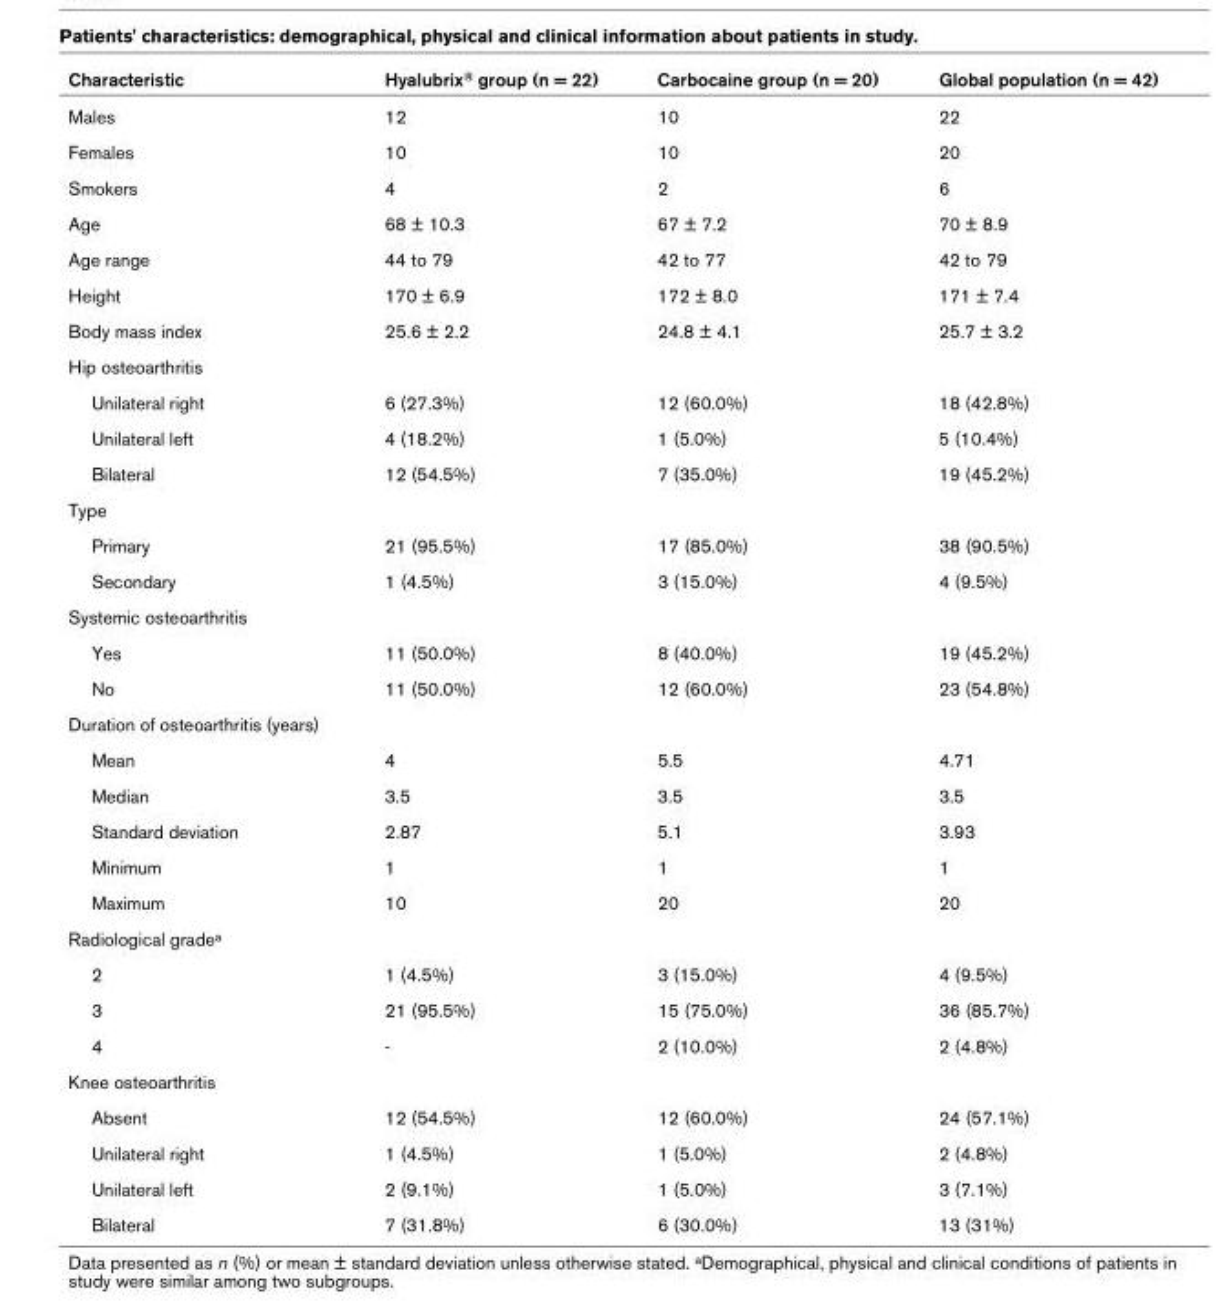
<table><thead><tr><td>Characteristic</td><td>Hyalubrix<sup>®</sup> group (n = 22)</td><td>Carbocaine group (n = 20)</td><td>Global population (n = 42)</td></tr></thead><tbody><tr><td>Males</td><td>12</td><td>10</td><td>22</td></tr><tr><td>Females</td><td>10</td><td>10</td><td>20</td></tr><tr><td>Smokers</td><td>4</td><td>2</td><td>6</td></tr><tr><td>Age</td><td>68 ± 10.3</td><td>67 ± 7.2</td><td>70 ± 8.9</td></tr><tr><td>Age range</td><td>44 to 79</td><td>42 to 77</td><td>42 to 79</td></tr><tr><td>Height</td><td>170 ± 6.9</td><td>172 ± 8.0</td><td>171 ± 7.4</td></tr><tr><td>Body mass index</td><td>25.6 ± 2.2</td><td>24.8 ± 4.1</td><td>25.7 ± 3.2</td></tr><tr><td colspan="4">Hip osteoarthritis</td></tr><tr><td>Unilateral right</td><td>6 (27.3%)</td><td>12 (60.0%)</td><td>18 (42.8%)</td></tr><tr><td>Unilateral left</td><td>4 (18.2%)</td><td>1 (5.0%)</td><td>5 (10.4%)</td></tr><tr><td>Bilateral</td><td>12 (54.5%)</td><td>7 (35.0%)</td><td>19 (45.2%)</td></tr><tr><td colspan="4">Type</td></tr><tr><td>Primary</td><td>21 (95.5%)</td><td>17 (85.0%)</td><td>38 (90.5%)</td></tr><tr><td>Secondary</td><td>1 (4.5%)</td><td>3 (15.0%)</td><td>4 (9.5%)</td></tr><tr><td colspan="4">Systemic osteoarthritis</td></tr><tr><td>Yes</td><td>11 (50.0%)</td><td>8 (40.0%)</td><td>19 (45.2%)</td></tr><tr><td>No</td><td>11 (50.0%)</td><td>12 (60.0%)</td><td>23 (54.8%)</td></tr><tr><td colspan="4">Duration of osteoarthritis (years)</td></tr><tr><td>Mean</td><td>4</td><td>5.5</td><td>4.71</td></tr><tr><td>Median</td><td>3.5</td><td>3.5</td><td>3.5</td></tr><tr><td>Standard deviation</td><td>2.87</td><td>5.1</td><td>3.93</td></tr><tr><td>Minimum</td><td>1</td><td>1</td><td>1</td></tr><tr><td>Maximum</td><td>10</td><td>20</td><td>20</td></tr><tr><td colspan="4">Radiological grade<sup>a</sup></td></tr><tr><td>2</td><td>1 (4.5%)</td><td>3 (15.0%)</td><td>4 (9.5%)</td></tr><tr><td>3</td><td>21 (95.5%)</td><td>15 (75.0%)</td><td>36 (85.7%)</td></tr><tr><td>4</td><td>-</td><td>2 (10.0%)</td><td>2 (4.8%)</td></tr><tr><td colspan="4">Knee osteoarthritis</td></tr><tr><td>Absent</td><td>12 (54.5%)</td><td>12 (60.0%)</td><td>24 (57.1%)</td></tr><tr><td>Unilateral right</td><td>1 (4.5%)</td><td>1 (5.0%)</td><td>2 (4.8%)</td></tr><tr><td>Unilateral left</td><td>2 (9.1%)</td><td>1 (5.0%)</td><td>3 (7.1%)</td></tr><tr><td>Bilateral</td><td>7 (31.8%)</td><td>6 (30.0%)</td><td>13 (31%)</td></tr></tbody></table>